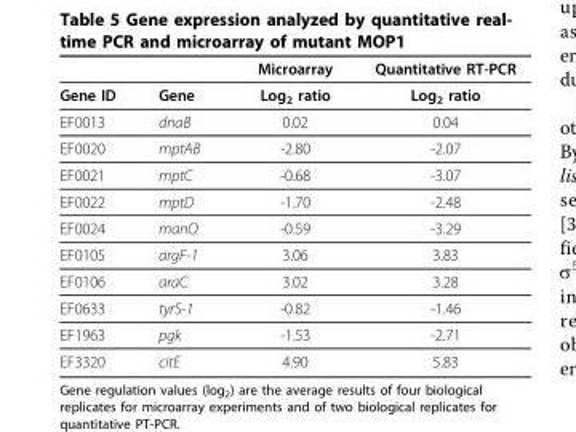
<table><thead><tr><td></td><td></td><td>Microarray</td><td>Quantitative RT-PCR</td></tr></thead><tbody><tr><td>Gene ID</td><td>Gene</td><td>Log<sub>2</sub> ratio</td><td>Log<sub>2</sub> ratio</td></tr><tr><td>EF0013</td><td>dnaB</td><td>0.02</td><td>0.04</td></tr><tr><td>EF0020</td><td>mptAB</td><td>-2.80</td><td>-2.07</td></tr><tr><td>EF0021</td><td>mptC</td><td>-0.68</td><td>-3.07</td></tr><tr><td>EF0022</td><td>mptD</td><td>-1.70</td><td>-2.48</td></tr><tr><td>EF0024</td><td>manO</td><td>-0.59</td><td>-3.29</td></tr><tr><td>EF0105</td><td>argF-1</td><td>3.06</td><td>3.83</td></tr><tr><td>EF0106</td><td>araC</td><td>3.02</td><td>3.28</td></tr><tr><td>EF0633</td><td>tyrS-1</td><td>-0.82</td><td>-1.46</td></tr><tr><td>EF1963</td><td>pgk</td><td>-1.53</td><td>-2.71</td></tr><tr><td>EF3320</td><td>citE</td><td>4.90</td><td>5.83</td></tr></tbody></table>